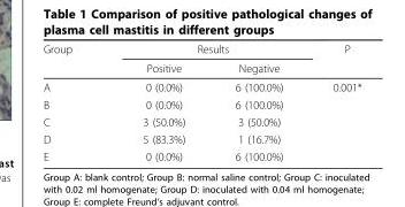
<table><thead><tr><td rowspan="2">Group</td><td colspan="2">Results</td><td rowspan="2">P</td></tr><tr><td>Positive</td><td>Negative</td></tr></thead><tbody><tr><td>A</td><td>0 (0.0%)</td><td>6 (100.0%)</td><td>0.001*</td></tr><tr><td>B</td><td>0 (0.0%)</td><td>6 (100.0%)</td><td></td></tr><tr><td>C</td><td>3 (50.0%)</td><td>3 (50.0%)</td><td></td></tr><tr><td>D</td><td>5 (83.3%)</td><td>1 (16.7%)</td><td></td></tr><tr><td>E</td><td>0 (0.0%)</td><td>6 (100.0%)</td><td></td></tr></tbody></table>